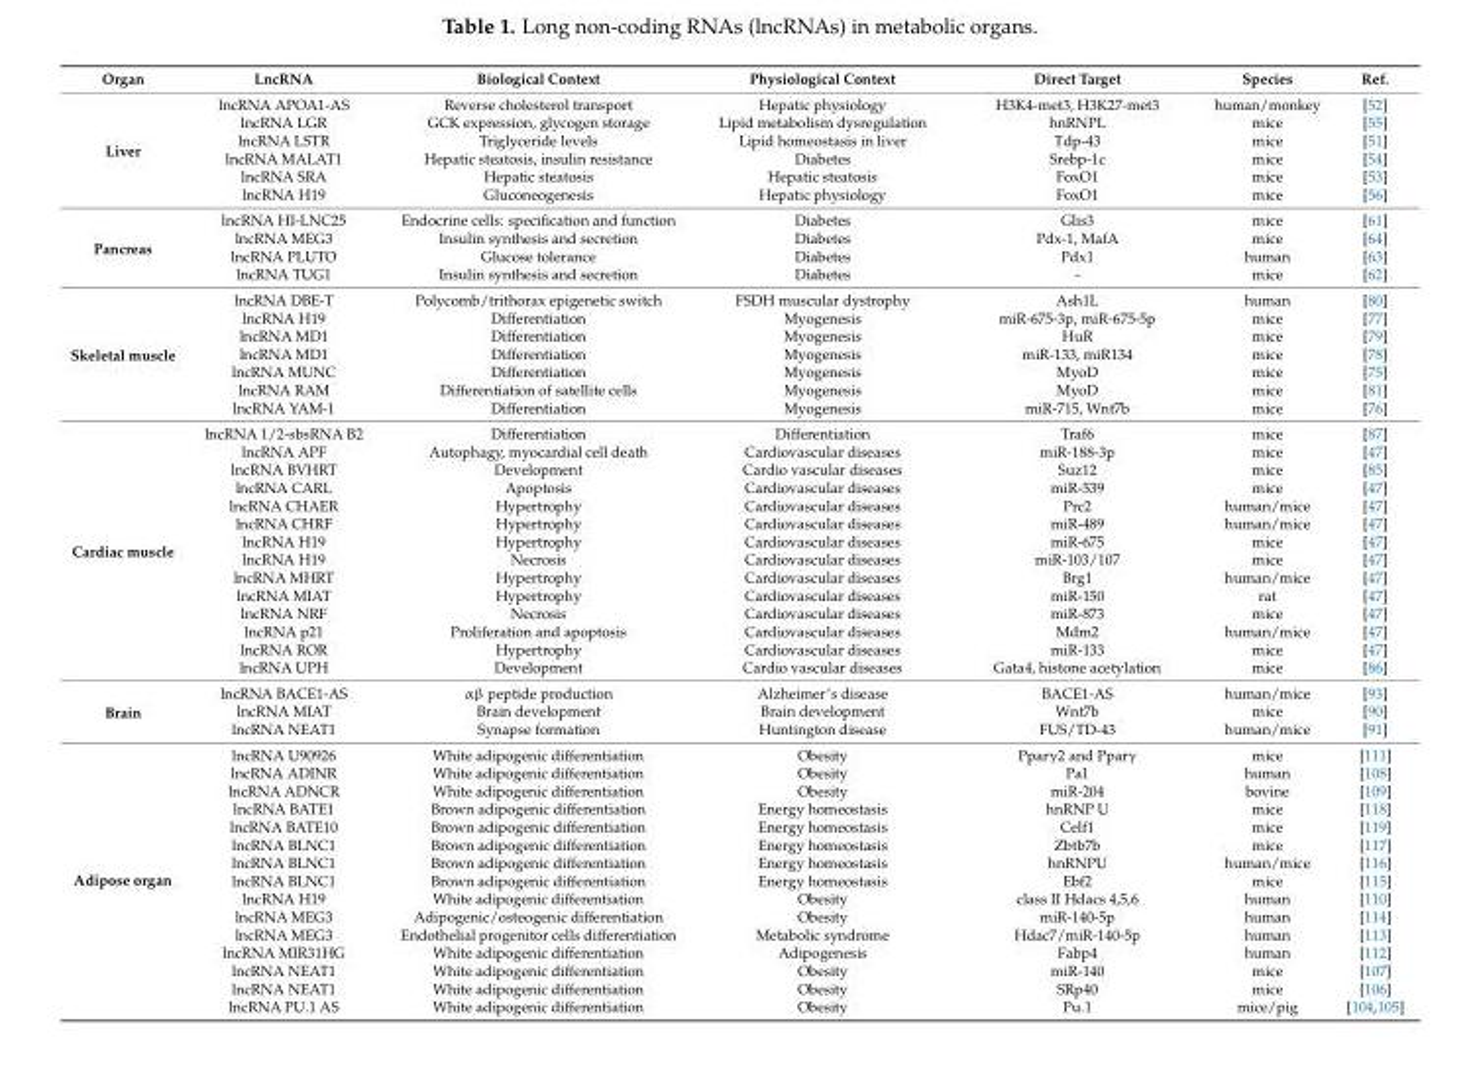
<table><thead><tr><td>Organ</td><td>LncRNA</td><td>Biological Context</td><td>Physiological Context</td><td>Direct Target</td><td>Species</td><td>Ref.</td></tr></thead><tbody><tr><td rowspan="6">Liver</td><td>lncRNA APOA1-AS</td><td>Reverse cholesterol transport</td><td>Hepatic physiology</td><td>H3K4-met3, H3K27-met3</td><td>human/monkey</td><td>[52]</td></tr><tr><td>lncRNA LGR</td><td>GCK expression, glycogen storage</td><td>Lipid metabolism dysregulation</td><td>hnRNPL</td><td>mice</td><td>[55]</td></tr><tr><td>lncRNA LSTR</td><td>Triglyceride levels</td><td>Lipid homeostasis in liver</td><td>Tdp-43</td><td>mice</td><td>[51]</td></tr><tr><td>lncRNA MALAT1</td><td>Hepatic steatosis, insulin resistance</td><td>Diabetes</td><td>Srebp-1c</td><td>mice</td><td>[54]</td></tr><tr><td>lncRNA SRA</td><td>Hepatic steatosis</td><td>Hepatic steatosis</td><td>FoxO1</td><td>mice</td><td>[53]</td></tr><tr><td>lncRNA H19</td><td>Gluconeogenesis</td><td>Hepatic physiology</td><td>FoxO1</td><td>mice</td><td>[56]</td></tr><tr><td rowspan="4">Pancreas</td><td>lncRNA HI-LNC25</td><td>Endocrine cells: specification and function</td><td>Diabetes</td><td>Glis3</td><td>mice</td><td>[61]</td></tr><tr><td>lncRNA MEG3</td><td>Insulin synthesis and secretion</td><td>Diabetes</td><td>Pdx-1, MafA</td><td>mice</td><td>[64]</td></tr><tr><td>lncRNA PLUTO</td><td>Glucose tolerance</td><td>Diabetes</td><td>Pdx1</td><td>human</td><td>[63]</td></tr><tr><td>lncRNA TUG1</td><td>Insulin synthesis and secretion</td><td>Diabetes</td><td>-</td><td>mice</td><td>[62]</td></tr><tr><td rowspan="7">Skeletal muscle</td><td>lncRNA DBE-T</td><td>Polycomb/trithorax epigenetic switch</td><td>FSDH muscular dystrophy</td><td>Ash1L</td><td>human</td><td>[80]</td></tr><tr><td>lncRNA H19</td><td>Differentiation</td><td>Myogenesis</td><td>miR-675-3p, miR-675-5p</td><td>mice</td><td>[77]</td></tr><tr><td>lncRNA MD1</td><td>Differentiation</td><td>Myogenesis</td><td>HuR</td><td>mice</td><td>[79]</td></tr><tr><td>lncRNA MD1</td><td>Differentiation</td><td>Myogenesis</td><td>miR-133, miR134</td><td>mice</td><td>[78]</td></tr><tr><td>lncRNA MUNC</td><td>Differentiation</td><td>Myogenesis</td><td>MyoD</td><td>mice</td><td>[75]</td></tr><tr><td>lncRNA RAM</td><td>Differentiation of satellite cells</td><td>Myogenesis</td><td>MyoD</td><td>mice</td><td>[81]</td></tr><tr><td>lncRNA YAM-1</td><td>Differentiation</td><td>Myogenesis</td><td>miR-715, Wnt7b</td><td>mice</td><td>[76]</td></tr><tr><td rowspan="14">Cardiac muscle</td><td>lncRNA 1/2-sbsRNA B2</td><td>Differentiation</td><td>Differentiation</td><td>Traf6</td><td>mice</td><td>[87]</td></tr><tr><td>lncRNA APF</td><td>Autophagy, myocardial cell death</td><td>Cardiovascular diseases</td><td>miR-188-3p</td><td>mice</td><td>[47]</td></tr><tr><td>lncRNA BVHRT</td><td>Development</td><td>Cardio vascular diseases</td><td>Suz12</td><td>mice</td><td>[85]</td></tr><tr><td>lncRNA CARL</td><td>Apoptosis</td><td>Cardiovascular diseases</td><td>miR-539</td><td>mice</td><td>[47]</td></tr><tr><td>lncRNA CHAER</td><td>Hypertrophy</td><td>Cardiovascular diseases</td><td>Prc2</td><td>human/mice</td><td>[47]</td></tr><tr><td>lncRNA CHRF</td><td>Hypertrophy</td><td>Cardiovascular diseases</td><td>miR-489</td><td>human/mice</td><td>[47]</td></tr><tr><td>lncRNA H19</td><td>Hypertrophy</td><td>Cardiovascular diseases</td><td>miR-675</td><td>mice</td><td>[47]</td></tr><tr><td>lncRNA H19</td><td>Necrosis</td><td>Cardiovascular diseases</td><td>miR-103/107</td><td>mice</td><td>[47]</td></tr><tr><td>lncRNA MHRT</td><td>Hypertrophy</td><td>Cardiovascular diseases</td><td>Brg1</td><td>human/mice</td><td>[47]</td></tr><tr><td>lncRNA MIAT</td><td>Hypertrophy</td><td>Cardiovascular diseases</td><td>miR-150</td><td>rat</td><td>[47]</td></tr><tr><td>lncRNA NRF</td><td>Necrosis</td><td>Cardiovascular diseases</td><td>miR-873</td><td>mice</td><td>[47]</td></tr><tr><td>lncRNA p21</td><td>Proliferation and apoptosis</td><td>Cardiovascular diseases</td><td>Mdm2</td><td>human/mice</td><td>[47]</td></tr><tr><td>lncRNA ROR</td><td>Hypertrophy</td><td>Cardiovascular diseases</td><td>miR-133</td><td>mice</td><td>[47]</td></tr><tr><td>lncRNA UPH</td><td>Development</td><td>Cardio vascular diseases</td><td>Gata4, histone acetylation</td><td>mice</td><td>[86]</td></tr><tr><td rowspan="3">Brain</td><td>lncRNA BACE1-AS</td><td>αβ peptide production</td><td>Alzheimer’s disease</td><td>BACE1-AS</td><td>human/mice</td><td>[93]</td></tr><tr><td>lncRNA MIAT</td><td>Brain development</td><td>Brain development</td><td>Wnt7b</td><td>mice</td><td>[90]</td></tr><tr><td>lncRNA NEAT1</td><td>Synapse formation</td><td>Huntington disease</td><td>FUS/TD-43</td><td>human/mice</td><td>[91]</td></tr><tr><td rowspan="15">Adipose organ</td><td>lncRNA U90926</td><td>White adipogenic differentiation</td><td>Obesity</td><td>Pparγ2 and Pparγ</td><td>mice</td><td>[111]</td></tr><tr><td>lncRNA ADINR</td><td>White adipogenic differentiation</td><td>Obesity</td><td>Pa1</td><td>human</td><td>[108]</td></tr><tr><td>lncRNA ADNCR</td><td>White adipogenic differentiation</td><td>Obesity</td><td>miR-204</td><td>bovine</td><td>[109]</td></tr><tr><td>lncRNA BATE1</td><td>Brown adipogenic differentiation</td><td>Energy homeostasis</td><td>hnRNP U</td><td>mice</td><td>[118]</td></tr><tr><td>lncRNA BATE10</td><td>Brown adipogenic differentiation</td><td>Energy homeostasis</td><td>Celf1</td><td>mice</td><td>[119]</td></tr><tr><td>lncRNA BLNC1</td><td>Brown adipogenic differentiation</td><td>Energy homeostasis</td><td>Zbtb7b</td><td>mice</td><td>[117]</td></tr><tr><td>lncRNA BLNC1</td><td>Brown adipogenic differentiation</td><td>Energy homeostasis</td><td>hnRNPU</td><td>human/mice</td><td>[116]</td></tr><tr><td>lncRNA BLNC1</td><td>Brown adipogenic differentiation</td><td>Energy homeostasis</td><td>Ebf2</td><td>mice</td><td>[115]</td></tr><tr><td>lncRNA H19</td><td>White adipogenic differentiation</td><td>Obesity</td><td>class II Hdacs 4,5,6</td><td>human</td><td>[110]</td></tr><tr><td>lncRNA MEG3</td><td>Adipogenic/osteogenic differentiation</td><td>Obesity</td><td>miR-140-5p</td><td>human</td><td>[114]</td></tr><tr><td>lncRNA MEG3</td><td>Endothelial progenitor cells differentiation</td><td>Metabolic syndrome</td><td>Hdac7/miR-140-5p</td><td>human</td><td>[113]</td></tr><tr><td>lncRNA MIR31HG</td><td>White adipogenic differentiation</td><td>Adipogenesis</td><td>Fabp4</td><td>human</td><td>[112]</td></tr><tr><td>lncRNA NEAT1</td><td>White adipogenic differentiation</td><td>Obesity</td><td>miR-140</td><td>mice</td><td>[107]</td></tr><tr><td>lncRNA NEAT1</td><td>White adipogenic differentiation</td><td>Obesity</td><td>SRp40</td><td>mice</td><td>[106]</td></tr><tr><td>lncRNA PU.1 AS</td><td>White adipogenic differentiation</td><td>Obesity</td><td>Pu.1</td><td>mice/pig</td><td>[104,105]</td></tr></tbody></table>